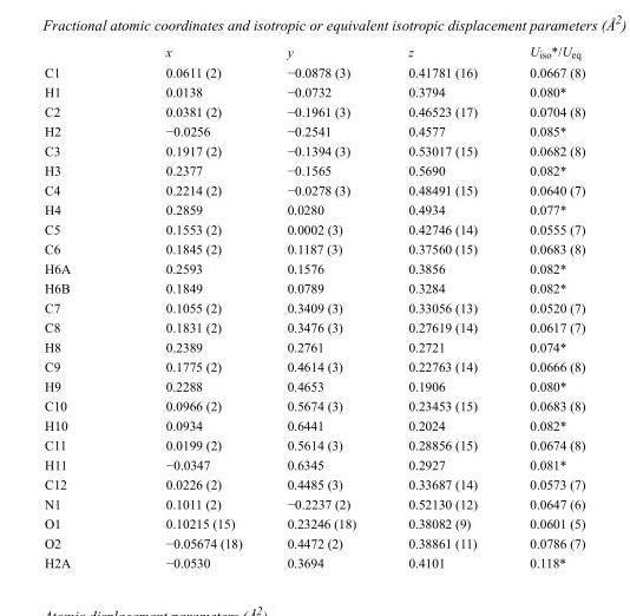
<table><thead><tr><td></td><td>x</td><td>y</td><td>z</td><td>U<sub>iso</sub>*/U<sub>eq</sub></td></tr></thead><tbody><tr><td>C1</td><td>0.0611 (2)</td><td>−0.0878 (3)</td><td>0.41781 (16)</td><td>0.0667 (8)</td></tr><tr><td>H1</td><td>0.0138</td><td>−0.0732</td><td>0.3794</td><td>0.080*</td></tr><tr><td>C2</td><td>0.0381 (2)</td><td>−0.1961 (3)</td><td>0.46523 (17)</td><td>0.0704 (8)</td></tr><tr><td>H2</td><td>−0.0256</td><td>−0.2541</td><td>0.4577</td><td>0.085*</td></tr><tr><td>C3</td><td>0.1917 (2)</td><td>−0.1394 (3)</td><td>0.53017 (15)</td><td>0.0682 (8)</td></tr><tr><td>H3</td><td>0.2377</td><td>−0.1565</td><td>0.5690</td><td>0.082*</td></tr><tr><td>C4</td><td>0.2214 (2)</td><td>−0.0278 (3)</td><td>0.48491 (15)</td><td>0.0640 (7)</td></tr><tr><td>H4</td><td>0.2859</td><td>0.0280</td><td>0.4934</td><td>0.077*</td></tr><tr><td>C5</td><td>0.1553 (2)</td><td>0.0002 (3)</td><td>0.42746 (14)</td><td>0.0555 (7)</td></tr><tr><td>C6</td><td>0.1845 (2)</td><td>0.1187 (3)</td><td>0.37560 (15)</td><td>0.0683 (8)</td></tr><tr><td>H6A</td><td>0.2593</td><td>0.1576</td><td>0.3856</td><td>0.082*</td></tr><tr><td>H6B</td><td>0.1849</td><td>0.0789</td><td>0.3284</td><td>0.082*</td></tr><tr><td>C7</td><td>0.1055 (2)</td><td>0.3409 (3)</td><td>0.33056 (13)</td><td>0.0520 (7)</td></tr><tr><td>C8</td><td>0.1831 (2)</td><td>0.3476 (3)</td><td>0.27619 (14)</td><td>0.0617 (7)</td></tr><tr><td>H8</td><td>0.2389</td><td>0.2761</td><td>0.2721</td><td>0.074*</td></tr><tr><td>C9</td><td>0.1775 (2)</td><td>0.4614 (3)</td><td>0.22763 (14)</td><td>0.0666 (8)</td></tr><tr><td>H9</td><td>0.2288</td><td>0.4653</td><td>0.1906</td><td>0.080*</td></tr><tr><td>C10</td><td>0.0966 (2)</td><td>0.5674 (3)</td><td>0.23453 (15)</td><td>0.0683 (8)</td></tr><tr><td>H10</td><td>0.0934</td><td>0.6441</td><td>0.2024</td><td>0.082*</td></tr><tr><td>C11</td><td>0.0199 (2)</td><td>0.5614 (3)</td><td>0.28856 (15)</td><td>0.0674 (8)</td></tr><tr><td>H11</td><td>−0.0347</td><td>0.6345</td><td>0.2927</td><td>0.081*</td></tr><tr><td>C12</td><td>0.0226 (2)</td><td>0.4485 (3)</td><td>0.33687 (14)</td><td>0.0573 (7)</td></tr><tr><td>N1</td><td>0.1011 (2)</td><td>−0.2237 (2)</td><td>0.52130 (12)</td><td>0.0647 (6)</td></tr><tr><td>O1</td><td>0.10215 (15)</td><td>0.23246 (18)</td><td>0.38082 (9)</td><td>0.0601 (5)</td></tr><tr><td>O2</td><td>−0.05674 (18)</td><td>0.4472 (2)</td><td>0.38861 (11)</td><td>0.0786 (7)</td></tr><tr><td>H2A</td><td>−0.0530</td><td>0.3694</td><td>0.4101</td><td>0.118*</td></tr></tbody></table>